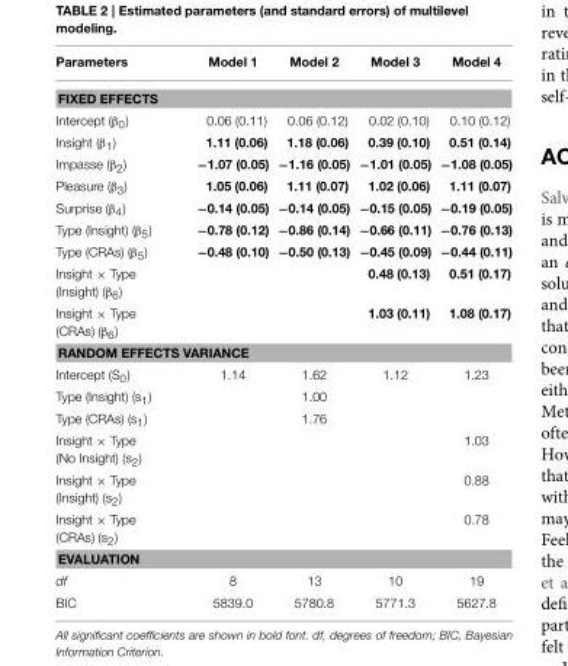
<table><thead><tr><td>Parameters</td><td>Model 1</td><td>Model 2</td><td>Model 3</td><td>Model 4</td></tr></thead><tbody><tr><td colspan="5">FIXED EFFECTS</td></tr><tr><td>Intercept (β<sub>0</sub>)</td><td>0.06 (0.11)</td><td>0.06 (0.12)</td><td>0.02 (0.10)</td><td>0.10 (0.12)</td></tr><tr><td>Insight (β<sub>1</sub>)</td><td>1.11 (0.06)</td><td>1.18 (0.06)</td><td>0.39 (0.10)</td><td>0.51 (0.14)</td></tr><tr><td>Impasse (β<sub>2</sub>)</td><td>−1.07 (0.05)</td><td>−1.16 (0.05)</td><td>−1.01 (0.05)</td><td>−1.08 (0.05)</td></tr><tr><td>Pleasure (β<sub>3</sub>)</td><td>1.05 (0.06)</td><td>1.11 (0.07)</td><td>1.02 (0.06)</td><td>1.11 (0.07)</td></tr><tr><td>Surprise (β<sub>4</sub>)</td><td>−0.14 (0.05)</td><td>−0.14 (0.05)</td><td>−0.15 (0.05)</td><td>−0.19 (0.05)</td></tr><tr><td>Type (Insight) (β<sub>5</sub>)</td><td>−0.78 (0.12)</td><td>−0.86 (0.14)</td><td>−0.66 (0.11)</td><td>−0.76 (0.13)</td></tr><tr><td>Type (CRAs) (β<sub>5</sub>)</td><td>−0.48 (0.10)</td><td>−0.50 (0.13)</td><td>−0.45 (0.09)</td><td>−0.44 (0.11)</td></tr><tr><td>Insight × Type (Insight) (β<sub>6</sub>)</td><td></td><td></td><td>0.48 (0.13)</td><td>0.51 (0.17)</td></tr><tr><td>Insight × Type (CRAs) (β<sub>6</sub>)</td><td></td><td></td><td>1.03 (0.11)</td><td>1.08 (0.17)</td></tr><tr><td colspan="5">RANDOM EFFECTS VARIANCE</td></tr><tr><td>Intercept (S<sub>0</sub>)</td><td>1.14</td><td>1.62</td><td>1.12</td><td>1.23</td></tr><tr><td>Type (Insight) (s<sub>1</sub>)</td><td></td><td>1.00</td><td></td><td></td></tr><tr><td>Type (CRAs) (s<sub>1</sub>)</td><td></td><td>1.76</td><td></td><td></td></tr><tr><td>Insight × Type (No Insight) (s<sub>2</sub>)</td><td></td><td></td><td></td><td>1.03</td></tr><tr><td>Insight × Type (Insight) (s<sub>2</sub>)</td><td></td><td></td><td></td><td>0.88</td></tr><tr><td>Insight × Type (CRAs) (s<sub>2</sub>)</td><td></td><td></td><td></td><td>0.78</td></tr><tr><td colspan="5">EVALUATION</td></tr><tr><td>df</td><td>8</td><td>13</td><td>10</td><td>19</td></tr><tr><td>BIC</td><td>5839.0</td><td>5780.8</td><td>5771.3</td><td>5627.8</td></tr></tbody></table>